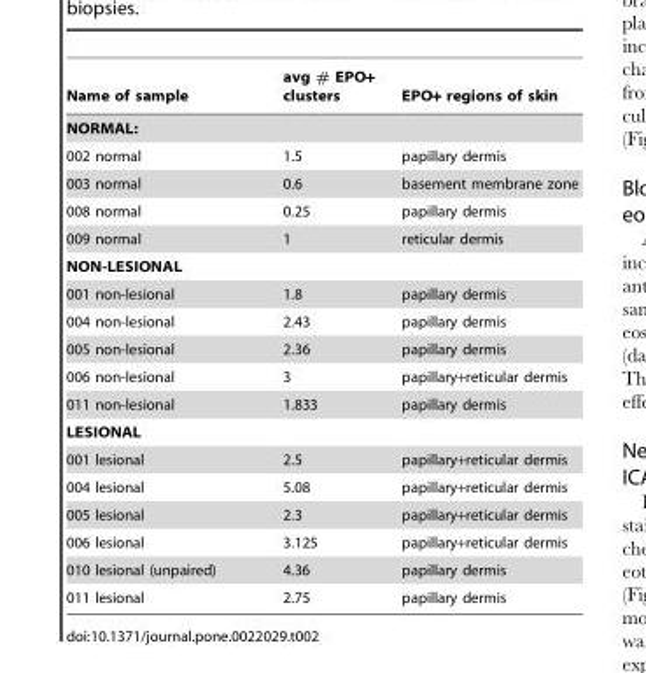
<table><thead><tr><td>Name of sample</td><td>avg # EPO+ clusters</td><td>EPO+ regions of skin</td></tr></thead><tbody><tr><td colspan="3">NORMAL:</td></tr><tr><td>002 normal</td><td>1.5</td><td>papillary dermis</td></tr><tr><td>003 normal</td><td>0.6</td><td>basement membrane zone</td></tr><tr><td>008 normal</td><td>0.25</td><td>papillary dermis</td></tr><tr><td>009 normal</td><td>1</td><td>reticular dermis</td></tr><tr><td colspan="3">NON-LESIONAL</td></tr><tr><td>001 non-lesional</td><td>1.8</td><td>papillary dermis</td></tr><tr><td>004 non-lesional</td><td>2.43</td><td>papillary dermis</td></tr><tr><td>005 non-lesional</td><td>2.36</td><td>papillary dermis</td></tr><tr><td>006 non-lesional</td><td>3</td><td>papillary+reticular dermis</td></tr><tr><td>011 non-lesional</td><td>1.833</td><td>papillary dermis</td></tr><tr><td colspan="3">LESIONAL</td></tr><tr><td>001 lesional</td><td>2.5</td><td>papillary+reticular dermis</td></tr><tr><td>004 lesional</td><td>5.08</td><td>papillary+reticular dermis</td></tr><tr><td>005 lesional</td><td>2.3</td><td>papillary+reticular dermis</td></tr><tr><td>006 lesional</td><td>3.125</td><td>papillary+reticular dermis</td></tr><tr><td>010 lesional (unpaired)</td><td>4.36</td><td>papillary dermis</td></tr><tr><td>011 lesional</td><td>2.75</td><td>papillary dermis</td></tr></tbody></table>